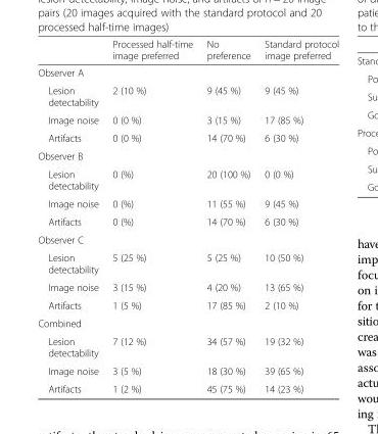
<table><thead><tr><td></td><td>Processed half-time image preferred</td><td>No preference</td><td>Standard protocol image preferred</td></tr></thead><tbody><tr><td colspan="4">Observer A</td></tr><tr><td>Lesion detectability</td><td>2 (10 %)</td><td>9 (45 %)</td><td>9 (45 %)</td></tr><tr><td>Image noise</td><td>0 (0 %)</td><td>3 (15 %)</td><td>17 (85 %)</td></tr><tr><td>Artifacts</td><td>0 (0 %)</td><td>14 (70 %)</td><td>6 (30 %)</td></tr><tr><td colspan="4">Observer B</td></tr><tr><td>Lesion detectability</td><td>0 (%)</td><td>20 (100 %)</td><td>0 (0 %)</td></tr><tr><td>Image noise</td><td>0 (%)</td><td>11 (55 %)</td><td>9 (45 %)</td></tr><tr><td>Artifacts</td><td>0 (%)</td><td>14 (70 %)</td><td>6 (30 %)</td></tr><tr><td colspan="4">Observer C</td></tr><tr><td>Lesion detectability</td><td>5 (25 %)</td><td>5 (25 %)</td><td>10 (50 %)</td></tr><tr><td>Image noise</td><td>3 (15 %)</td><td>4 (20 %)</td><td>13 (65 %)</td></tr><tr><td>Artifacts</td><td>1 (5 %)</td><td>17 (85 %)</td><td>2 (10 %)</td></tr><tr><td colspan="4">Combined</td></tr><tr><td>Lesion detectability</td><td>7 (12 %)</td><td>34 (57 %)</td><td>19 (32 %)</td></tr><tr><td>Image noise</td><td>3 (5 %)</td><td>18 (30 %)</td><td>39 (65 %)</td></tr><tr><td>Artifacts</td><td>1 (2 %)</td><td>45 (75 %)</td><td>14 (23 %)</td></tr></tbody></table>